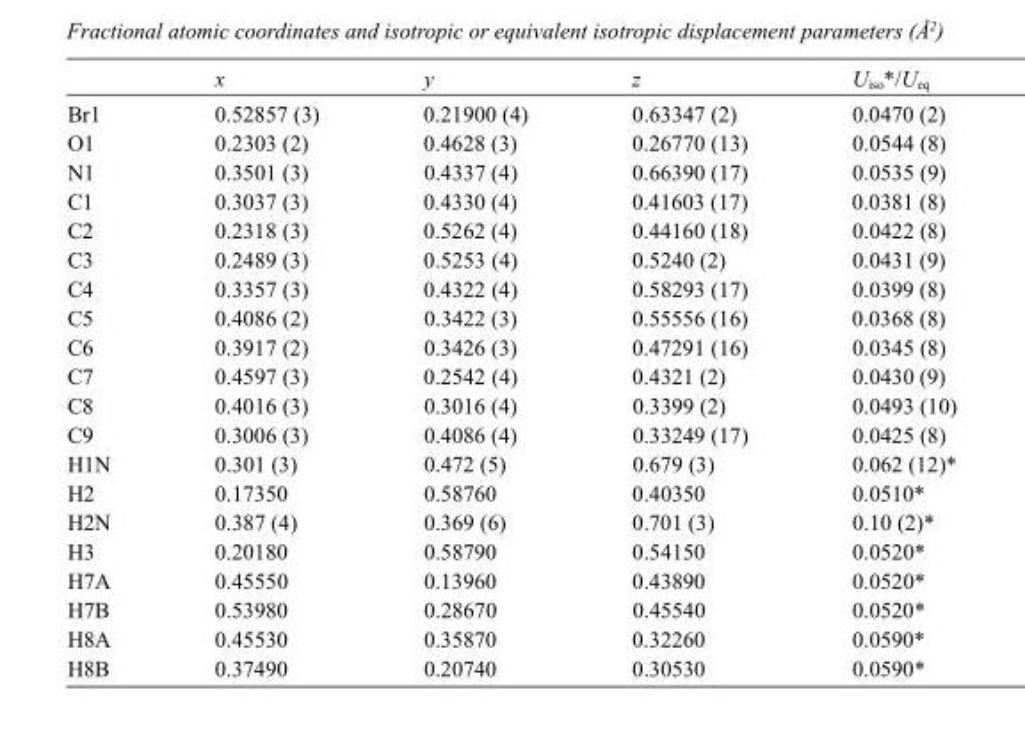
<table><thead><tr><td></td><td>x</td><td>y</td><td>z</td><td>U<sub>iso</sub>*/U<sub>eq</sub></td></tr></thead><tbody><tr><td>Br1</td><td>0.52857 (3)</td><td>0.21900 (4)</td><td>0.63347 (2)</td><td>0.0470 (2)</td></tr><tr><td>O1</td><td>0.2303 (2)</td><td>0.4628 (3)</td><td>0.26770 (13)</td><td>0.0544 (8)</td></tr><tr><td>N1</td><td>0.3501 (3)</td><td>0.4337 (4)</td><td>0.66390 (17)</td><td>0.0535 (9)</td></tr><tr><td>C1</td><td>0.3037 (3)</td><td>0.4330 (4)</td><td>0.41603 (17)</td><td>0.0381 (8)</td></tr><tr><td>C2</td><td>0.2318 (3)</td><td>0.5262 (4)</td><td>0.44160 (18)</td><td>0.0422 (8)</td></tr><tr><td>C3</td><td>0.2489 (3)</td><td>0.5253 (4)</td><td>0.5240 (2)</td><td>0.0431 (9)</td></tr><tr><td>C4</td><td>0.3357 (3)</td><td>0.4322 (4)</td><td>0.58293 (17)</td><td>0.0399 (8)</td></tr><tr><td>C5</td><td>0.4086 (2)</td><td>0.3422 (3)</td><td>0.55556 (16)</td><td>0.0368 (8)</td></tr><tr><td>C6</td><td>0.3917 (2)</td><td>0.3426 (3)</td><td>0.47291 (16)</td><td>0.0345 (8)</td></tr><tr><td>C7</td><td>0.4597 (3)</td><td>0.2542 (4)</td><td>0.4321 (2)</td><td>0.0430 (9)</td></tr><tr><td>C8</td><td>0.4016 (3)</td><td>0.3016 (4)</td><td>0.3399 (2)</td><td>0.0493 (10)</td></tr><tr><td>C9</td><td>0.3006 (3)</td><td>0.4086 (4)</td><td>0.33249 (17)</td><td>0.0425 (8)</td></tr><tr><td>H1N</td><td>0.301 (3)</td><td>0.472 (5)</td><td>0.679 (3)</td><td>0.062 (12)*</td></tr><tr><td>H2</td><td>0.17350</td><td>0.58760</td><td>0.40350</td><td>0.0510*</td></tr><tr><td>H2N</td><td>0.387 (4)</td><td>0.369 (6)</td><td>0.701 (3)</td><td>0.10 (2)*</td></tr><tr><td>H3</td><td>0.20180</td><td>0.58790</td><td>0.54150</td><td>0.0520*</td></tr><tr><td>H7A</td><td>0.45550</td><td>0.13960</td><td>0.43890</td><td>0.0520*</td></tr><tr><td>H7B</td><td>0.53980</td><td>0.28670</td><td>0.45540</td><td>0.0520*</td></tr><tr><td>H8A</td><td>0.45530</td><td>0.35870</td><td>0.32260</td><td>0.0590*</td></tr><tr><td>H8B</td><td>0.37490</td><td>0.20740</td><td>0.30530</td><td>0.0590*</td></tr></tbody></table>